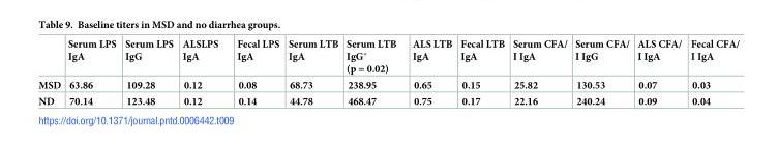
<table><thead><tr><td></td><td>Serum LPS IgA</td><td>Serum LPS IgG</td><td>ALSLPS IgA</td><td>Fecal LPS IgA</td><td>Serum LTB IgA</td><td>Serum LTB IgG* (p = 0.02)</td><td>ALS LTB IgA</td><td>Fecal LTB IgA</td><td>Serum CFA/ I IgA</td><td>Serum CFA/ I IgG</td><td>ALS CFA/ I IgA</td><td>Fecal CFA/ I IgA</td></tr></thead><tbody><tr><td>MSD</td><td>63.86</td><td>109.28</td><td>0.12</td><td>0.08</td><td>68.73</td><td>238.95</td><td>0.65</td><td>0.15</td><td>25.82</td><td>130.53</td><td>0.07</td><td>0.03</td></tr><tr><td>ND</td><td>70.14</td><td>123.48</td><td>0.12</td><td>0.14</td><td>44.78</td><td>468.47</td><td>0.75</td><td>0.17</td><td>22.16</td><td>240.24</td><td>0.09</td><td>0.04</td></tr></tbody></table>